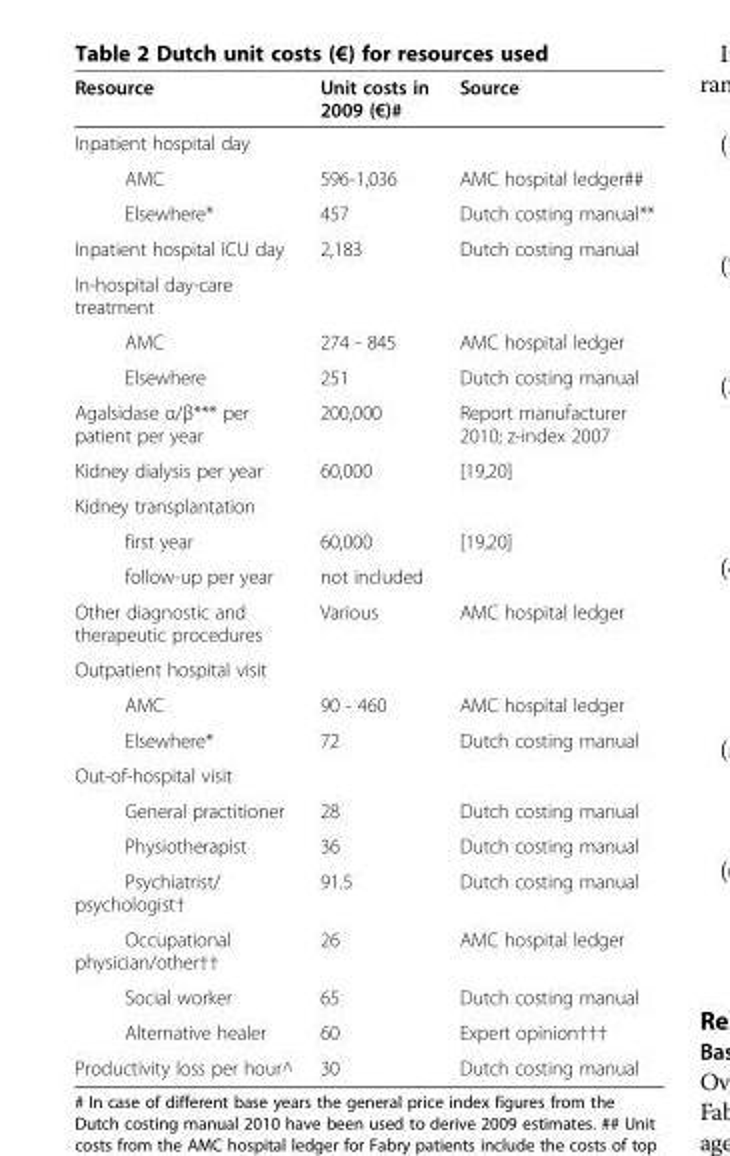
<table><thead><tr><td>Resource</td><td>Unit costs in 2009 (€)#</td><td>Source</td></tr></thead><tbody><tr><td colspan="3">Inpatient hospital day</td></tr><tr><td>AMC</td><td>596-1,036</td><td>AMC hospital ledger##</td></tr><tr><td>Elsewhere*</td><td>457</td><td>Dutch costing manual**</td></tr><tr><td>Inpatient hospital ICU day</td><td>2,183</td><td>Dutch costing manual</td></tr><tr><td colspan="3">In-hospital day-care treatment</td></tr><tr><td>AMC</td><td>274 - 845</td><td>AMC hospital ledger</td></tr><tr><td>Elsewhere</td><td>251</td><td>Dutch costing manual</td></tr><tr><td>Agalsidase α/β*** per patient per year</td><td>200,000</td><td>Report manufacturer 2010; z-index 2007</td></tr><tr><td>Kidney dialysis per year</td><td>60,000</td><td>[19,20]</td></tr><tr><td colspan="3">Kidney transplantation</td></tr><tr><td>first year</td><td>60,000</td><td>[19,20]</td></tr><tr><td>follow-up per year</td><td>not included</td><td></td></tr><tr><td>Other diagnostic and therapeutic procedures</td><td>Various</td><td>AMC hospital ledger</td></tr><tr><td colspan="3">Outpatient hospital visit</td></tr><tr><td>AMC</td><td>90 - 460</td><td>AMC hospital ledger</td></tr><tr><td>Elsewhere*</td><td>72</td><td>Dutch costing manual</td></tr><tr><td colspan="3">Out-of-hospital visit</td></tr><tr><td>General practitioner</td><td>28</td><td>Dutch costing manual</td></tr><tr><td>Physiotherapist</td><td>36</td><td>Dutch costing manual</td></tr><tr><td>Psychiatrist/ psychologist†</td><td>91.5</td><td>Dutch costing manual</td></tr><tr><td>Occupational physician/other††</td><td>26</td><td>AMC hospital ledger</td></tr><tr><td>Social worker</td><td>65</td><td>Dutch costing manual</td></tr><tr><td>Alternative healer</td><td>60</td><td>Expert opinion†††</td></tr><tr><td>Productivity loss per hour^</td><td>30</td><td>Dutch costing manual</td></tr></tbody></table>